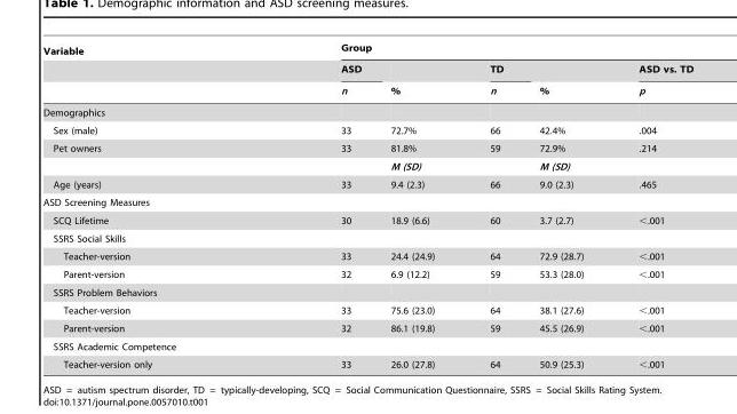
<table><thead><tr><td rowspan="3">Variable</td><td colspan="5">Group</td></tr><tr><td rowspan="2">ASD n</td><td rowspan="2">%</td><td rowspan="2">TD n</td><td rowspan="2">%</td><td rowspan="2">ASD vs. TD p</td></tr><tr></tr></thead><tbody><tr><td colspan="6">Demographics</td></tr><tr><td>Sex (male)</td><td>33</td><td>72.7%</td><td>66</td><td>42.4%</td><td>.004</td></tr><tr><td rowspan="2">Pet owners</td><td>33</td><td>81.8%</td><td>59</td><td>72.9%</td><td>.214</td></tr><tr><td></td><td>M (SD)</td><td></td><td>M (SD)</td><td></td></tr><tr><td>Age (years)</td><td>33</td><td>9.4 (2.3)</td><td>66</td><td>9.0 (2.3)</td><td>.465</td></tr><tr><td colspan="6">ASD Screening Measures</td></tr><tr><td>SCQ Lifetime</td><td>30</td><td>18.9 (6.6)</td><td>60</td><td>3.7 (2.7)</td><td>&lt;.001</td></tr><tr><td colspan="6">SSRS Social Skills</td></tr><tr><td>Teacher-version</td><td>33</td><td>24.4 (24.9)</td><td>64</td><td>72.9 (28.7)</td><td>&lt;.001</td></tr><tr><td>Parent-version</td><td>32</td><td>6.9 (12.2)</td><td>59</td><td>53.3 (28.0)</td><td>&lt;.001</td></tr><tr><td colspan="6">SSRS Problem Behaviors</td></tr><tr><td>Teacher-version</td><td>33</td><td>75.6 (23.0)</td><td>64</td><td>38.1 (27.6)</td><td>&lt;.001</td></tr><tr><td>Parent-version</td><td>32</td><td>86.1 (19.8)</td><td>59</td><td>45.5 (26.9)</td><td>&lt;.001</td></tr><tr><td colspan="6">SSRS Academic Competence</td></tr><tr><td>Teacher-version only</td><td>33</td><td>26.0 (27.8)</td><td>64</td><td>50.9 (25.3)</td><td>&lt;.001</td></tr></tbody></table>